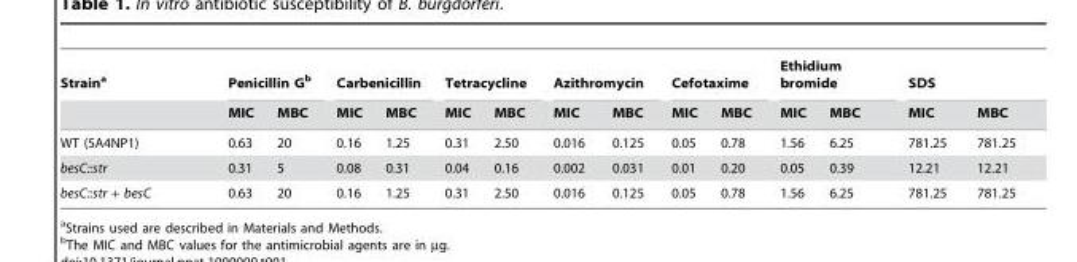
<table><thead><tr><td rowspan="2">Strain<sup>a</sup></td><td colspan="2">Penicillin G<sup>b</sup></td><td colspan="2">Carbenicillin</td><td colspan="2">Tetracycline</td><td colspan="2">Azithromycin</td><td colspan="2">Cefotaxime</td><td colspan="2">Ethidium bromide</td><td colspan="2">SDS</td></tr><tr><td>MIC</td><td>MBC</td><td>MIC</td><td>MBC</td><td>MIC</td><td>MBC</td><td>MIC</td><td>MBC</td><td>MIC</td><td>MBC</td><td>MIC</td><td>MBC</td><td>MIC</td><td>MBC</td></tr></thead><tbody><tr><td>WT (5A4NP1)</td><td>0.63</td><td>20</td><td>0.16</td><td>1.25</td><td>0.31</td><td>2.50</td><td>0.016</td><td>0.125</td><td>0.05</td><td>0.78</td><td>1.56</td><td>6.25</td><td>781.25</td><td>781.25</td></tr><tr><td>besC::str</td><td>0.31</td><td>5</td><td>0.08</td><td>0.31</td><td>0.04</td><td>0.16</td><td>0.002</td><td>0.031</td><td>0.01</td><td>0.20</td><td>0.05</td><td>0.39</td><td>12.21</td><td>12.21</td></tr><tr><td>besC::str + besC</td><td>0.63</td><td>20</td><td>0.16</td><td>1.25</td><td>0.31</td><td>2.50</td><td>0.016</td><td>0.125</td><td>0.05</td><td>0.78</td><td>1.56</td><td>6.25</td><td>781.25</td><td>781.25</td></tr></tbody></table>